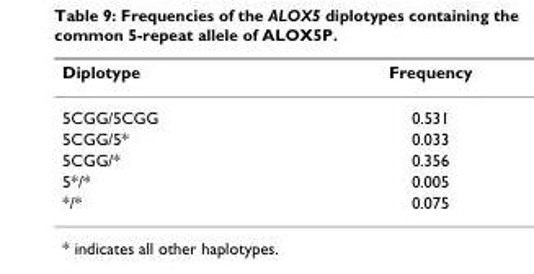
<table><thead><tr><td>Diplotype</td><td>Frequency</td></tr></thead><tbody><tr><td>5CGG/5CGG</td><td>0.531</td></tr><tr><td>5CGG/5*</td><td>0.033</td></tr><tr><td>5CGG/*</td><td>0.356</td></tr><tr><td>5*/*</td><td>0.005</td></tr><tr><td>*/*</td><td>0.075</td></tr></tbody></table>